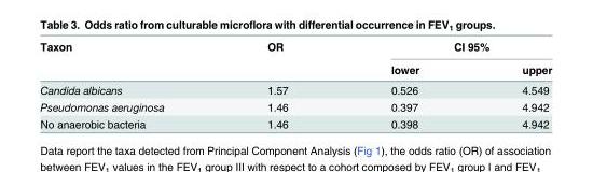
<table><thead><tr><td rowspan="2">Taxon</td><td rowspan="2">OR</td><td colspan="2">CI 95%</td></tr><tr><td>lower</td><td>upper</td></tr></thead><tbody><tr><td>Candida albicans</td><td>1.57</td><td>0.526</td><td>4.549</td></tr><tr><td>Pseudomonas aeruginosa</td><td>1.46</td><td>0.397</td><td>4.942</td></tr><tr><td>No anaerobic bacteria</td><td>1.46</td><td>0.398</td><td>4.942</td></tr></tbody></table>